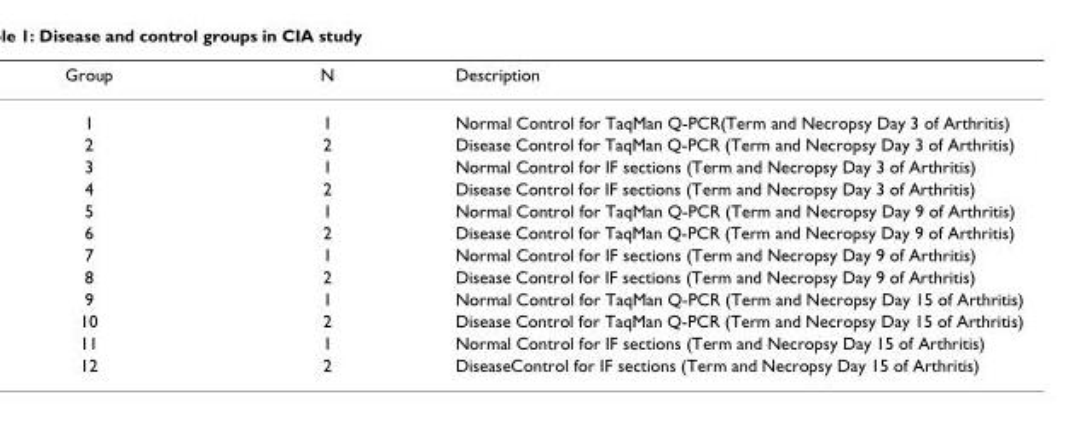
<table><thead><tr><td>Group</td><td>N</td><td>Description</td></tr></thead><tbody><tr><td>1</td><td>1</td><td>Normal Control for TaqMan Q-PCR(Term and Necropsy Day 3 of Arthritis)</td></tr><tr><td>2</td><td>2</td><td>Disease Control for TaqMan Q-PCR (Term and Necropsy Day 3 of Arthritis)</td></tr><tr><td>3</td><td>1</td><td>Normal Control for IF sections (Term and Necropsy Day 3 of Arthritis)</td></tr><tr><td>4</td><td>2</td><td>Disease Control for IF sections (Term and Necropsy Day 3 of Arthritis)</td></tr><tr><td>5</td><td>1</td><td>Normal Control for TaqMan Q-PCR (Term and Necropsy Day 9 of Arthritis)</td></tr><tr><td>6</td><td>2</td><td>Disease Control for TaqMan Q-PCR (Term and Necropsy Day 9 of Arthritis)</td></tr><tr><td>7</td><td>1</td><td>Normal Control for IF sections (Term and Necropsy Day 9 of Arthritis)</td></tr><tr><td>8</td><td>2</td><td>Disease Control for IF sections (Term and Necropsy Day 9 of Arthritis)</td></tr><tr><td>9</td><td>1</td><td>Normal Control for TaqMan Q-PCR (Term and Necropsy Day 15 of Arthritis)</td></tr><tr><td>10</td><td>2</td><td>Disease Control for TaqMan Q-PCR (Term and Necropsy Day 15 of Arthritis)</td></tr><tr><td>11</td><td>1</td><td>Normal Control for IF sections (Term and Necropsy Day 15 of Arthritis)</td></tr><tr><td>12</td><td>2</td><td>DiseaseControl for IF sections (Term and Necropsy Day 15 of Arthritis)</td></tr></tbody></table>